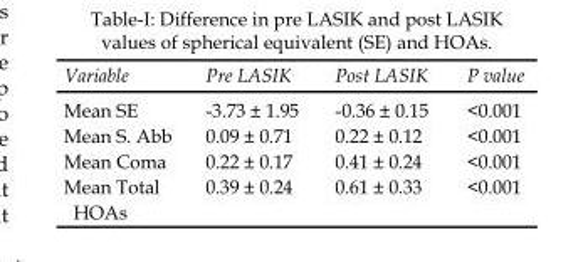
<table><thead><tr><td>Variable</td><td>Pre LASIK</td><td>Post LASIK</td><td>P value</td></tr></thead><tbody><tr><td>Mean SE</td><td>-3.73 ± 1.95</td><td>-0.36 ± 0.15</td><td>&lt;0.001</td></tr><tr><td>Mean S. Abb</td><td>0.09 ± 0.71</td><td>0.22 ± 0.12</td><td>&lt;0.001</td></tr><tr><td>Mean Coma</td><td>0.22 ± 0.17</td><td>0.41 ± 0.24</td><td>&lt;0.001</td></tr><tr><td>Mean Total</td><td>0.39 ± 0.24</td><td>0.61 ± 0.33</td><td>&lt;0.001</td></tr></tbody></table>